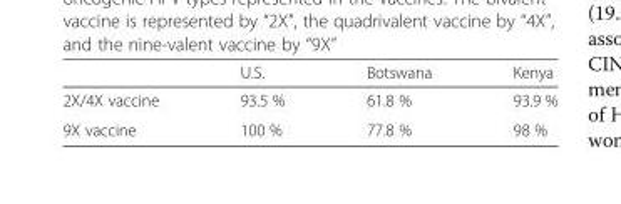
<table><thead><tr><td></td><td>U.S.</td><td>Botswana</td><td>Kenya</td></tr></thead><tbody><tr><td>2X/4X vaccine</td><td>93.5 %</td><td>61.8 %</td><td>93.9 %</td></tr><tr><td>9X vaccine</td><td>100 %</td><td>77.8 %</td><td>98 %</td></tr></tbody></table>